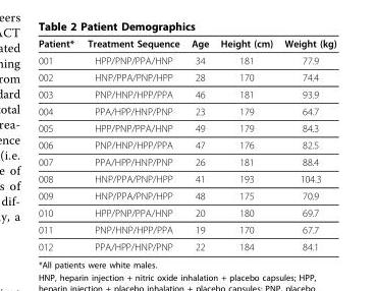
<table><thead><tr><td>Patient*</td><td>Treatment Sequence</td><td>Age</td><td>Height (cm)</td><td>Weight (kg)</td></tr></thead><tbody><tr><td>001</td><td>HPP/PNP/PPA/HNP</td><td>34</td><td>181</td><td>77.9</td></tr><tr><td>002</td><td>HNP/PPA/PNP/HPP</td><td>28</td><td>170</td><td>74.4</td></tr><tr><td>003</td><td>PNP/HNP/HPP/PPA</td><td>46</td><td>181</td><td>93.9</td></tr><tr><td>004</td><td>PPA/HPP/HNP/PNP</td><td>23</td><td>179</td><td>64.7</td></tr><tr><td>005</td><td>HPP/PNP/PPA/HNP</td><td>49</td><td>179</td><td>84.3</td></tr><tr><td>006</td><td>PNP/HNP/HPP/PPA</td><td>47</td><td>176</td><td>82.5</td></tr><tr><td>007</td><td>PPA/HPP/HNP/PNP</td><td>26</td><td>181</td><td>88.4</td></tr><tr><td>008</td><td>HNP/PPA/PNP/HPP</td><td>41</td><td>193</td><td>104.3</td></tr><tr><td>009</td><td>HNP/PPA/PNP/HPP</td><td>48</td><td>175</td><td>70.9</td></tr><tr><td>010</td><td>HPP/PNP/PPA/HNP</td><td>20</td><td>180</td><td>69.7</td></tr><tr><td>011</td><td>PNP/HNP/HPP/PPA</td><td>19</td><td>170</td><td>67.7</td></tr><tr><td>012</td><td>PPA/HPP/HNP/PNP</td><td>22</td><td>184</td><td>84.1</td></tr></tbody></table>